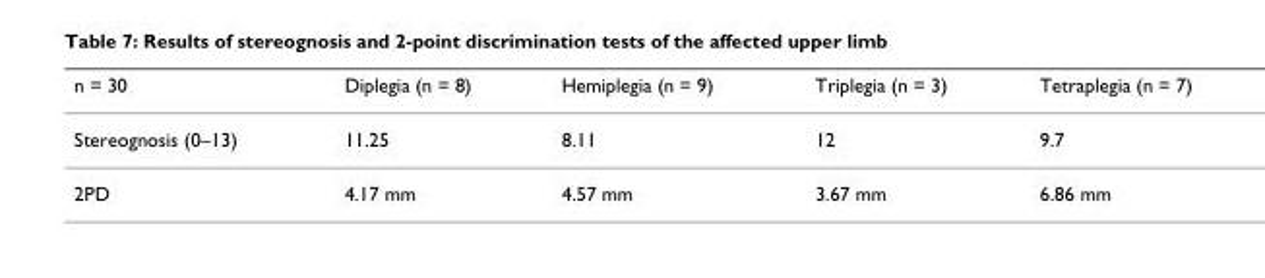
<table><thead><tr><td>n = 30</td><td>Diplegia (n = 8)</td><td>Hemiplegia (n = 9)</td><td>Triplegia (n = 3)</td><td>Tetraplegia (n = 7)</td></tr></thead><tbody><tr><td>Stereognosis (0–13)</td><td>11.25</td><td>8.11</td><td>12</td><td>9.7</td></tr><tr><td>2PD</td><td>4.17 mm</td><td>4.57 mm</td><td>3.67 mm</td><td>6.86 mm</td></tr></tbody></table>